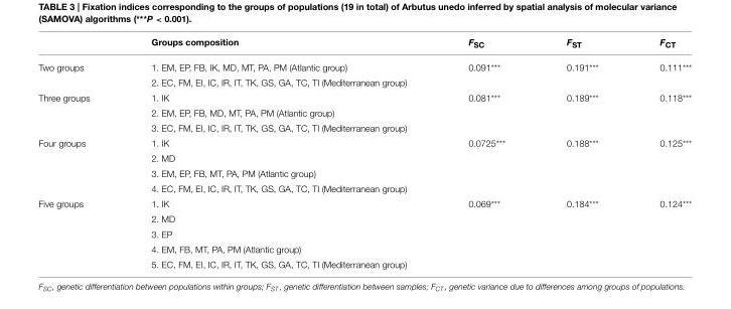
<table><thead><tr><td></td><td>Groups composition</td><td>F<sub>SC</sub></td><td>F<sub>ST</sub></td><td>F<sub>CT</sub></td></tr></thead><tbody><tr><td rowspan="2">Two groups</td><td>1. EM, EP, FB, IK, MD, MT, PA, PM (Atlantic group)</td><td>0.091***</td><td>0.191***</td><td>0.111***</td></tr><tr><td>2. EC, FM, EI, IC, IR, IT, TK, GS, GA, TC, TI (Mediterranean group)</td><td></td><td></td><td></td></tr><tr><td rowspan="3">Three groups</td><td>1. IK</td><td>0.081***</td><td>0.189***</td><td>0.118***</td></tr><tr><td>2. EM, EP, FB, MD, MT, PA, PM (Atlantic group)</td><td></td><td></td><td></td></tr><tr><td>3. EC, FM, EI, IC, IR, IT, TK, GS, GA, TC, TI (Mediterranean group)</td><td></td><td></td><td></td></tr><tr><td rowspan="4">Four groups</td><td>1. IK</td><td>0.0725***</td><td>0.188***</td><td>0.125***</td></tr><tr><td>2. MD</td><td></td><td></td><td></td></tr><tr><td>3. EM, EP, FB, MT, PA, PM (Atlantic group)</td><td></td><td></td><td></td></tr><tr><td>4. EC, FM, EI, IC, IR, IT, TK, GS, GA, TC, TI (Mediterranean group)</td><td></td><td></td><td></td></tr><tr><td rowspan="5">Five groups</td><td>1. IK</td><td>0.069***</td><td>0.184***</td><td>0.124***</td></tr><tr><td>2. MD</td><td></td><td></td><td></td></tr><tr><td>3. EP</td><td></td><td></td><td></td></tr><tr><td>4. EM, FB, MT, PA, PM (Atlantic group)</td><td></td><td></td><td></td></tr><tr><td>5. EC, FM, EI, IC, IR, IT, TK, GS, GA, TC, TI (Mediterranean group)</td><td></td><td></td><td></td></tr></tbody></table>